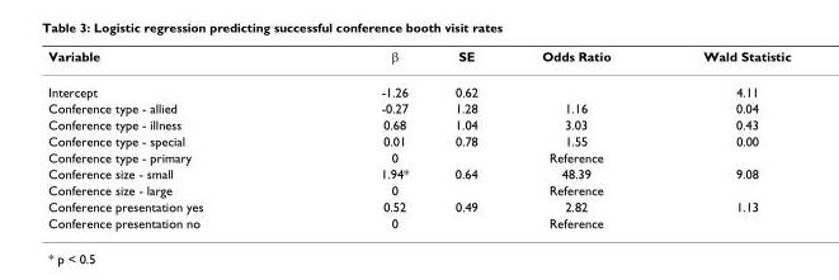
<table><thead><tr><td>Variable</td><td>β</td><td>SE</td><td>Odds Ratio</td><td>Wald Statistic</td></tr></thead><tbody><tr><td>Intercept</td><td>-1.26</td><td>0.62</td><td></td><td>4.11</td></tr><tr><td>Conference type - allied</td><td>-0.27</td><td>1.28</td><td>1.16</td><td>0.04</td></tr><tr><td>Conference type - illness</td><td>0.68</td><td>1.04</td><td>3.03</td><td>0.43</td></tr><tr><td>Conference type - special</td><td>0.01</td><td>0.78</td><td>1.55</td><td>0.00</td></tr><tr><td>Conference type - primary</td><td>0</td><td></td><td>Reference</td><td></td></tr><tr><td>Conference size - small</td><td>1.94*</td><td>0.64</td><td>48.39</td><td>9.08</td></tr><tr><td>Conference size - large</td><td>0</td><td></td><td>Reference</td><td></td></tr><tr><td>Conference presentation yes</td><td>0.52</td><td>0.49</td><td>2.82</td><td>1.13</td></tr><tr><td>Conference presentation no</td><td>0</td><td></td><td>Reference</td><td></td></tr></tbody></table>